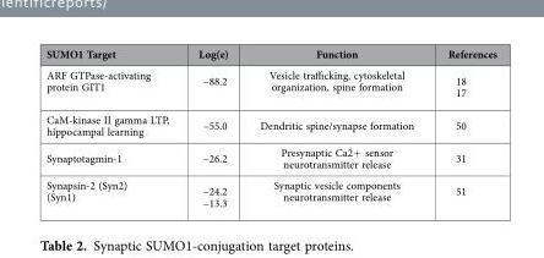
<table><thead><tr><td>SUMO1 Target</td><td>Log(e)</td><td>Function</td><td>References</td></tr></thead><tbody><tr><td>ARF GTPase-activating protein GIT1</td><td>– 88.2</td><td>Vesicle trafficking, cytoskeletal organization, spine formation</td><td>18 17</td></tr><tr><td>CaM-kinase II gamma LTP, hippocampal learning</td><td>–55.0</td><td>Dendritic spine/synapse formation</td><td>50</td></tr><tr><td>Synaptotagmin-1</td><td>–26.2</td><td>Presynaptic Ca2+ sensor neurotransmitter release</td><td>31</td></tr><tr><td>Synapsin-2 (Syn2) (Syn1)</td><td>–24.2 –13.3</td><td>Synaptic vesicle components neurotransmitter release</td><td>51</td></tr></tbody></table>